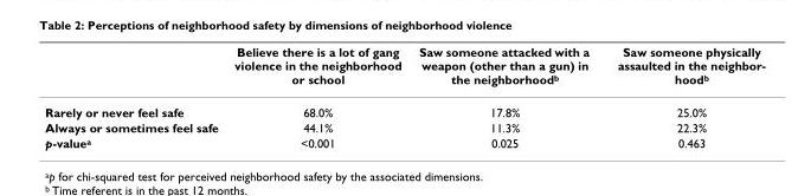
<table><thead><tr><td></td><td>Believe there is a lot of gang violence in the neighborhood or school</td><td>Saw someone attacked with a weapon (other than a gun) in the neighborhood<sup>b</sup></td><td>Saw someone physically assaulted in the neighbor- hoodb</td></tr></thead><tbody><tr><td>Rarely or never feel safe</td><td>68.0%</td><td>17.8%</td><td>25.0%</td></tr><tr><td>Always or sometimes feel safe</td><td>44.1%</td><td>11.3%</td><td>22.3%</td></tr><tr><td>p-value<sup>a</sup></td><td>&lt;0.001</td><td>0.025</td><td>0.463</td></tr></tbody></table>